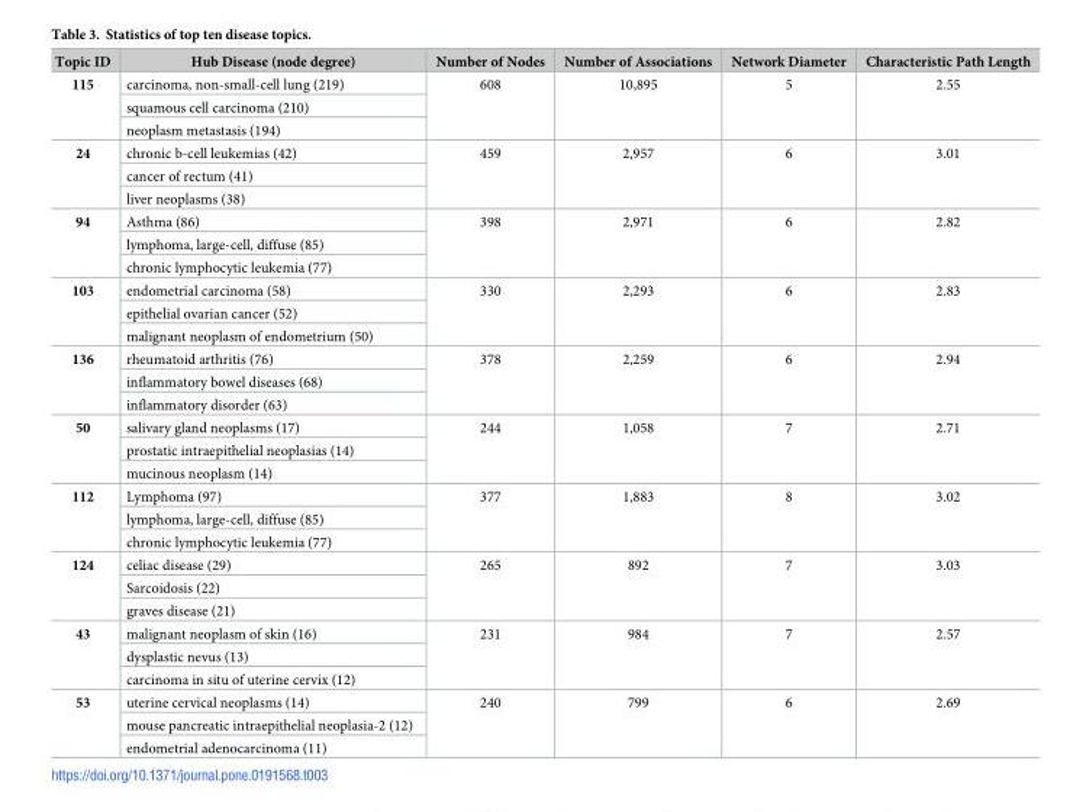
<table><thead><tr><td>Topic ID</td><td>Hub Disease (node degree)</td><td>Number of Nodes</td><td>Number of Associations</td><td>Network Diameter</td><td>Characteristic Path Length</td></tr></thead><tbody><tr><td rowspan="3">115</td><td>carcinoma, non-small-cell lung (219)</td><td rowspan="3">608</td><td rowspan="3">10,895</td><td rowspan="3">5</td><td rowspan="3">2.55</td></tr><tr><td>squamous cell carcinoma (210)</td></tr><tr><td>neoplasm metastasis (194)</td></tr><tr><td rowspan="3">24</td><td>chronic b-cell leukemias (42)</td><td rowspan="3">459</td><td rowspan="3">2,957</td><td rowspan="3">6</td><td rowspan="3">3.01</td></tr><tr><td>cancer of rectum (41)</td></tr><tr><td>liver neoplasms (38)</td></tr><tr><td rowspan="3">94</td><td>Asthma (86)</td><td rowspan="3">398</td><td rowspan="3">2,971</td><td rowspan="3">6</td><td rowspan="3">2.82</td></tr><tr><td>lymphoma, large-cell, diffuse (85)</td></tr><tr><td>chronic lymphocytic leukemia (77)</td></tr><tr><td rowspan="3">103</td><td>endometrial carcinoma (58)</td><td rowspan="3">330</td><td rowspan="3">2,293</td><td rowspan="3">6</td><td rowspan="3">2.83</td></tr><tr><td>epithelial ovarian cancer (52)</td></tr><tr><td>malignant neoplasm of endometrium (50)</td></tr><tr><td rowspan="3">136</td><td>rheumatoid arthritis (76)</td><td rowspan="3">378</td><td rowspan="3">2,259</td><td rowspan="3">6</td><td rowspan="3">2.94</td></tr><tr><td>inflammatory bowel diseases (68)</td></tr><tr><td>inflammatory disorder (63)</td></tr><tr><td rowspan="3">50</td><td>salivary gland neoplasms (17)</td><td rowspan="3">244</td><td rowspan="3">1,058</td><td rowspan="3">7</td><td rowspan="3">2.71</td></tr><tr><td>prostatic intraepithelial neoplasias (14)</td></tr><tr><td>mucinous neoplasm (14)</td></tr><tr><td rowspan="3">112</td><td>Lymphoma (97)</td><td rowspan="3">377</td><td rowspan="3">1,883</td><td rowspan="3">8</td><td rowspan="3">3.02</td></tr><tr><td>lymphoma, large-cell, diffuse (85)</td></tr><tr><td>chronic lymphocytic leukemia (77)</td></tr><tr><td rowspan="3">124</td><td>celiac disease (29)</td><td rowspan="3">265</td><td rowspan="3">892</td><td rowspan="3">7</td><td rowspan="3">3.03</td></tr><tr><td>Sarcoidosis (22)</td></tr><tr><td>graves disease (21)</td></tr><tr><td rowspan="3">43</td><td>malignant neoplasm of skin (16)</td><td rowspan="3">231</td><td rowspan="3">984</td><td rowspan="3">7</td><td rowspan="3">2.57</td></tr><tr><td>dysplastic nevus (13)</td></tr><tr><td>carcinoma in situ of uterine cervix (12)</td></tr><tr><td rowspan="3">53</td><td>uterine cervical neoplasms (14)</td><td rowspan="3">240</td><td rowspan="3">799</td><td rowspan="3">6</td><td rowspan="3">2.69</td></tr><tr><td>mouse pancreatic intraepithelial neoplasia-2 (12)</td></tr><tr><td>endometrial adenocarcinoma (11)</td></tr></tbody></table>